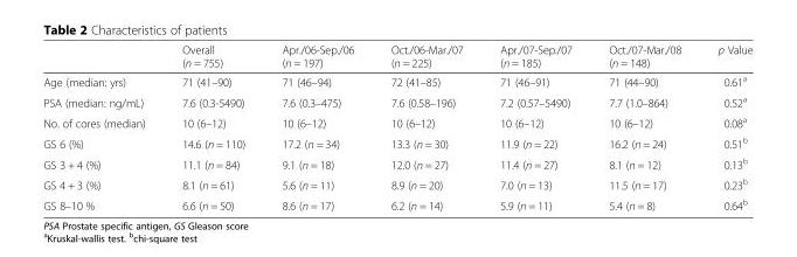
<table><thead><tr><td></td><td>Overall (n = 755)</td><td>Apr./06-Sep./06 (n = 197)</td><td>Oct./06-Mar./07 (n = 225)</td><td>Apr./07-Sep./07 (n = 185)</td><td>Oct./07-Mar./08 (n = 148)</td><td>p Value</td></tr></thead><tbody><tr><td>Age (median: yrs)</td><td>71 (41–90)</td><td>71 (46–94)</td><td>72 (41–85)</td><td>71 (46–91)</td><td>71 (44–90)</td><td>0.61<sup>a</sup></td></tr><tr><td>PSA (median: ng/mL)</td><td>7.6 (0.3-5490)</td><td>7.6 (0.3–475)</td><td>7.6 (0.58–196)</td><td>7.2 (0.57–5490)</td><td>7.7 (1.0–864)</td><td>0.52<sup>a</sup></td></tr><tr><td>No. of cores (median)</td><td>10 (6–12)</td><td>10 (6–12)</td><td>10 (6–12)</td><td>10 (6–12)</td><td>10 (6–12)</td><td>0.08<sup>a</sup></td></tr><tr><td>GS 6 (%)</td><td>14.6 (n = 110)</td><td>17.2 (n = 34)</td><td>13.3 (n = 30)</td><td>11.9 (n = 22)</td><td>16.2 (n = 24)</td><td>0.51<sup>b</sup></td></tr><tr><td>GS 3 + 4 (%)</td><td>11.1 (n = 84)</td><td>9.1 (n = 18)</td><td>12.0 (n = 27)</td><td>11.4 (n = 27)</td><td>8.1 (n = 12)</td><td>0.13<sup>b</sup></td></tr><tr><td>GS 4 + 3 (%)</td><td>8.1 (n = 61)</td><td>5.6 (n = 11)</td><td>8.9 (n = 20)</td><td>7.0 (n = 13)</td><td>11.5 (n = 17)</td><td>0.23<sup>b</sup></td></tr><tr><td>GS 8–10 %</td><td>6.6 (n = 50)</td><td>8.6 (n = 17)</td><td>6.2 (n = 14)</td><td>5.9 (n = 11)</td><td>5.4 (n = 8)</td><td>0.64<sup>b</sup></td></tr></tbody></table>